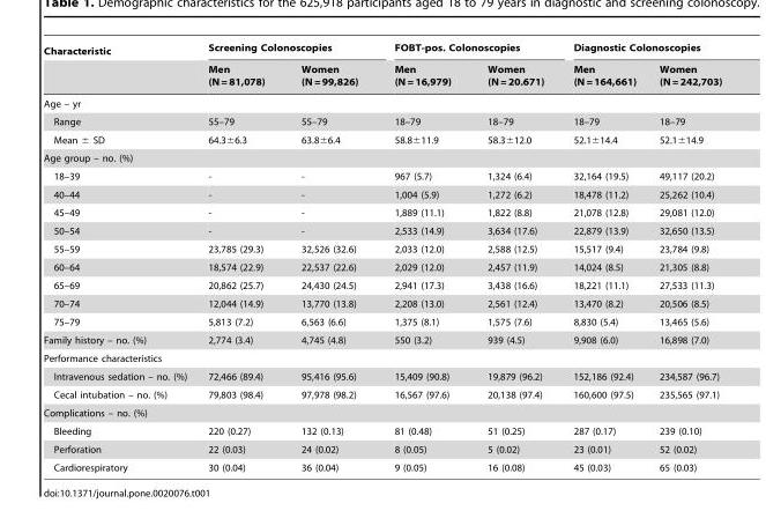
<table><thead><tr><td rowspan="2">Characteristic</td><td colspan="2">Screening Colonoscopies</td><td colspan="2">FOBT-pos. Colonoscopies</td><td colspan="2">Diagnostic Colonoscopies</td></tr><tr><td>Men (N = 81,078)</td><td>Women (N = 99,826)</td><td>Men (N = 16,979)</td><td>Women (N = 20.671)</td><td>Men (N = 164,661)</td><td>Women (N = 242,703)</td></tr></thead><tbody><tr><td colspan="7">Age – yr</td></tr><tr><td>Range</td><td>55–79</td><td>55–79</td><td>18–79</td><td>18–79</td><td>18–79</td><td>18–79</td></tr><tr><td>Mean ± SD</td><td>64.3±6.3</td><td>63.8±6.4</td><td>58.8±11.9</td><td>58.3±12.0</td><td>52.1±14.4</td><td>52.1±14.9</td></tr><tr><td colspan="7">Age group – no. (%)</td></tr><tr><td>18–39</td><td>-</td><td>-</td><td>967 (5.7)</td><td>1,324 (6.4)</td><td>32,164 (19.5)</td><td>49,117 (20.2)</td></tr><tr><td>40–44</td><td>-</td><td>-</td><td>1,004 (5.9)</td><td>1,272 (6.2)</td><td>18,478 (11.2)</td><td>25,262 (10.4)</td></tr><tr><td>45–49</td><td>-</td><td>-</td><td>1,889 (11.1)</td><td>1,822 (8.8)</td><td>21,078 (12.8)</td><td>29,081 (12.0)</td></tr><tr><td>50–54</td><td>-</td><td>-</td><td>2,533 (14.9)</td><td>3,634 (17.6)</td><td>22,879 (13.9)</td><td>32,650 (13.5)</td></tr><tr><td>55–59</td><td>23,785 (29.3)</td><td>32,526 (32.6)</td><td>2,033 (12.0)</td><td>2,588 (12.5)</td><td>15,517 (9.4)</td><td>23,784 (9.8)</td></tr><tr><td>60–64</td><td>18,574 (22.9)</td><td>22,537 (22.6)</td><td>2,029 (12.0)</td><td>2,457 (11.9)</td><td>14,024 (8.5)</td><td>21,305 (8.8)</td></tr><tr><td>65–69</td><td>20,862 (25.7)</td><td>24,430 (24.5)</td><td>2,941 (17.3)</td><td>3,438 (16.6)</td><td>18,221 (11.1)</td><td>27,533 (11.3)</td></tr><tr><td>70–74</td><td>12,044 (14.9)</td><td>13,770 (13.8)</td><td>2,208 (13.0)</td><td>2,561 (12.4)</td><td>13,470 (8.2)</td><td>20,506 (8.5)</td></tr><tr><td>75–79</td><td>5,813 (7.2)</td><td>6,563 (6.6)</td><td>1,375 (8.1)</td><td>1,575 (7.6)</td><td>8,830 (5.4)</td><td>13,465 (5.6)</td></tr><tr><td>Family history – no. (%)</td><td>2,774 (3.4)</td><td>4,745 (4.8)</td><td>550 (3.2)</td><td>939 (4.5)</td><td>9,908 (6.0)</td><td>16,898 (7.0)</td></tr><tr><td colspan="7">Performance characteristics</td></tr><tr><td>Intravenous sedation – no. (%)</td><td>72,466 (89.4)</td><td>95,416 (95.6)</td><td>15,409 (90.8)</td><td>19,879 (96.2)</td><td>152,186 (92.4)</td><td>234,587 (96.7)</td></tr><tr><td>Cecal intubation – no. (%)</td><td>79,803 (98.4)</td><td>97,978 (98.2)</td><td>16,567 (97.6)</td><td>20,138 (97.4)</td><td>160,600 (97.5)</td><td>235,565 (97.1)</td></tr><tr><td colspan="7">Complications – no. (%)</td></tr><tr><td>Bleeding</td><td>220 (0.27)</td><td>132 (0.13)</td><td>81 (0.48)</td><td>51 (0.25)</td><td>287 (0.17)</td><td>239 (0.10)</td></tr><tr><td>Perforation</td><td>22 (0.03)</td><td>24 (0.02)</td><td>8 (0.05)</td><td>5 (0.02)</td><td>23 (0.01)</td><td>52 (0.02)</td></tr><tr><td>Cardiorespiratory</td><td>30 (0.04)</td><td>36 (0.04)</td><td>9 (0.05)</td><td>16 (0.08)</td><td>45 (0.03)</td><td>65 (0.03)</td></tr></tbody></table>